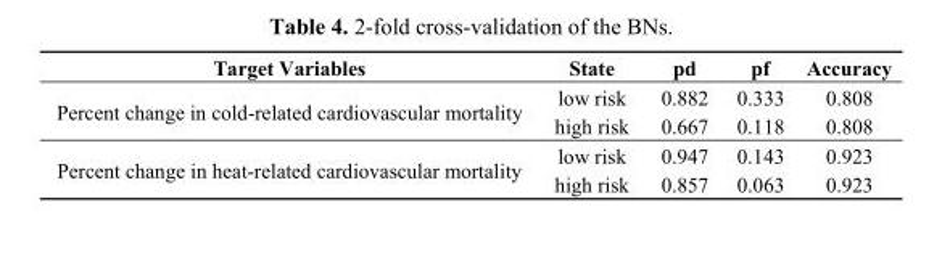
<table><thead><tr><td>Target Variables</td><td>State</td><td>pd</td><td>pf</td><td>Accuracy</td></tr></thead><tbody><tr><td rowspan="2">Percent change in cold-related cardiovascular mortality</td><td>low risk</td><td>0.882</td><td>0.333</td><td>0.808</td></tr><tr><td>high risk</td><td>0.667</td><td>0.118</td><td>0.808</td></tr><tr><td rowspan="2">Percent change in heat-related cardiovascular mortality</td><td>low risk</td><td>0.947</td><td>0.143</td><td>0.923</td></tr><tr><td>high risk</td><td>0.857</td><td>0.063</td><td>0.923</td></tr></tbody></table>